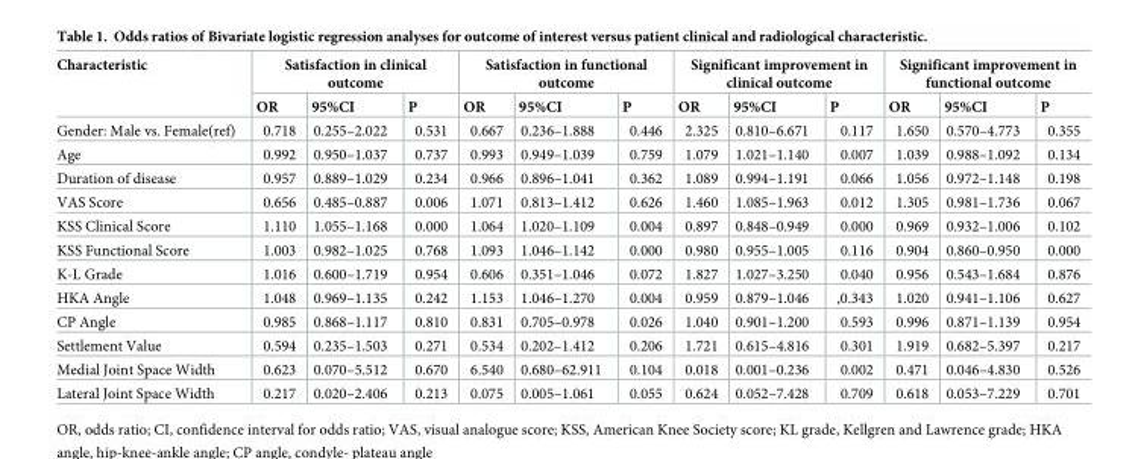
<table><thead><tr><td rowspan="2">Characteristic</td><td colspan="3">Satisfaction in clinical outcome</td><td colspan="3">Satisfaction in functional outcome</td><td colspan="3">Significant improvement in clinical outcome</td><td colspan="3">Significant improvement in functional outcome</td></tr><tr><td>OR</td><td>95%CI</td><td>P</td><td>OR</td><td>95%CI</td><td>P</td><td>OR</td><td>95%CI</td><td>P</td><td>OR</td><td>95%CI</td><td>P</td></tr></thead><tbody><tr><td>Gender: Male vs. Female(ref)</td><td>0.718</td><td>0.255–2.022</td><td>0.531</td><td>0.667</td><td>0.236–1.888</td><td>0.446</td><td>2.325</td><td>0.810–6.671</td><td>0.117</td><td>1.650</td><td>0.570–4.773</td><td>0.355</td></tr><tr><td>Age</td><td>0.992</td><td>0.950–1.037</td><td>0.737</td><td>0.993</td><td>0.949–1.039</td><td>0.759</td><td>1.079</td><td>1.021–1.140</td><td>0.007</td><td>1.039</td><td>0.988–1.092</td><td>0.134</td></tr><tr><td>Duration of disease</td><td>0.957</td><td>0.889–1.029</td><td>0.234</td><td>0.966</td><td>0.896–1.041</td><td>0.362</td><td>1.089</td><td>0.994–1.191</td><td>0.066</td><td>1.056</td><td>0.972–1.148</td><td>0.198</td></tr><tr><td>VAS Score</td><td>0.656</td><td>0.485–0.887</td><td>0.006</td><td>1.071</td><td>0.813–1.412</td><td>0.626</td><td>1.460</td><td>1.085–1.963</td><td>0.012</td><td>1.305</td><td>0.981–1.736</td><td>0.067</td></tr><tr><td>KSS Clinical Score</td><td>1.110</td><td>1.055–1.168</td><td>0.000</td><td>1.064</td><td>1.020–1.109</td><td>0.004</td><td>0.897</td><td>0.848–0.949</td><td>0.000</td><td>0.969</td><td>0.932–1.006</td><td>0.102</td></tr><tr><td>KSS Functional Score</td><td>1.003</td><td>0.982–1.025</td><td>0.768</td><td>1.093</td><td>1.046–1.142</td><td>0.000</td><td>0.980</td><td>0.955–1.005</td><td>0.116</td><td>0.904</td><td>0.860–0.950</td><td>0.000</td></tr><tr><td>K-L Grade</td><td>1.016</td><td>0.600–1.719</td><td>0.954</td><td>0.606</td><td>0.351–1.046</td><td>0.072</td><td>1.827</td><td>1.027–3.250</td><td>0.040</td><td>0.956</td><td>0.543–1.684</td><td>0.876</td></tr><tr><td>HKA Angle</td><td>1.048</td><td>0.969–1.135</td><td>0.242</td><td>1.153</td><td>1.046–1.270</td><td>0.004</td><td>0.959</td><td>0.879–1.046</td><td>,0.343</td><td>1.020</td><td>0.941–1.106</td><td>0.627</td></tr><tr><td>CP Angle</td><td>0.985</td><td>0.868–1.117</td><td>0.810</td><td>0.831</td><td>0.705–0.978</td><td>0.026</td><td>1.040</td><td>0.901–1.200</td><td>0.593</td><td>0.996</td><td>0.871–1.139</td><td>0.954</td></tr><tr><td>Settlement Value</td><td>0.594</td><td>0.235–1.503</td><td>0.271</td><td>0.534</td><td>0.202–1.412</td><td>0.206</td><td>1.721</td><td>0.615–4.816</td><td>0.301</td><td>1.919</td><td>0.682–5.397</td><td>0.217</td></tr><tr><td>Medial Joint Space Width</td><td>0.623</td><td>0.070–5.512</td><td>0.670</td><td>6.540</td><td>0.680–62.911</td><td>0.104</td><td>0.018</td><td>0.001–0.236</td><td>0.002</td><td>0.471</td><td>0.046–4.830</td><td>0.526</td></tr><tr><td>Lateral Joint Space Width</td><td>0.217</td><td>0.020–2.406</td><td>0.213</td><td>0.075</td><td>0.005–1.061</td><td>0.055</td><td>0.624</td><td>0.052–7.428</td><td>0.709</td><td>0.618</td><td>0.053–7.229</td><td>0.701</td></tr></tbody></table>